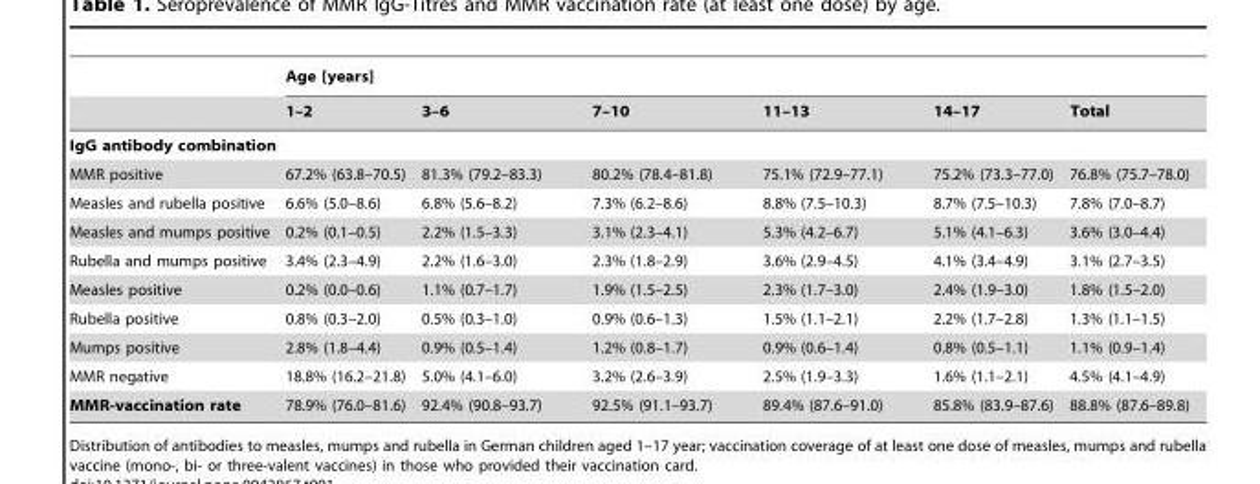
<table><thead><tr><td rowspan="2"></td><td colspan="6">Age [years]</td></tr><tr><td>1–2</td><td>3–6</td><td>7–10</td><td>11–13</td><td>14–17</td><td>Total</td></tr></thead><tbody><tr><td colspan="7">IgG antibody combination</td></tr><tr><td>MMR positive</td><td>67.2% (63.8–70.5)</td><td>81.3% (79.2–83.3)</td><td>80.2% (78.4–81.8)</td><td>75.1% (72.9–77.1)</td><td>75.2% (73.3–77.0)</td><td>76.8% (75.7–78.0)</td></tr><tr><td>Measles and rubella positive</td><td>6.6% (5.0–8.6)</td><td>6.8% (5.6–8.2)</td><td>7.3% (6.2–8.6)</td><td>8.8% (7.5–10.3)</td><td>8.7% (7.5–10.3)</td><td>7.8% (7.0–8.7)</td></tr><tr><td>Measles and mumps positive</td><td>0.2% (0.1–0.5)</td><td>2.2% (1.5–3.3)</td><td>3.1% (2.3–4.1)</td><td>5.3% (4.2–6.7)</td><td>5.1% (4.1–6.3)</td><td>3.6% (3.0–4.4)</td></tr><tr><td>Rubella and mumps positive</td><td>3.4% (2.3–4.9)</td><td>2.2% (1.6–3.0)</td><td>2.3% (1.8–2.9)</td><td>3.6% (2.9–4.5)</td><td>4.1% (3.4–4.9)</td><td>3.1% (2.7–3.5)</td></tr><tr><td>Measles positive</td><td>0.2% (0.0–0.6)</td><td>1.1% (0.7–1.7)</td><td>1.9% (1.5–2.5)</td><td>2.3% (1.7–3.0)</td><td>2.4% (1.9–3.0)</td><td>1.8% (1.5–2.0)</td></tr><tr><td>Rubella positive</td><td>0.8% (0.3–2.0)</td><td>0.5% (0.3–1.0)</td><td>0.9% (0.6–1.3)</td><td>1.5% (1.1–2.1)</td><td>2.2% (1.7–2.8)</td><td>1.3% (1.1–1.5)</td></tr><tr><td>Mumps positive</td><td>2.8% (1.8–4.4)</td><td>0.9% (0.5–1.4)</td><td>1.2% (0.8–1.7)</td><td>0.9% (0.6–1.4)</td><td>0.8% (0.5–1.1)</td><td>1.1% (0.9–1.4)</td></tr><tr><td>MMR negative</td><td>18.8% (16.2–21.8)</td><td>5.0% (4.1–6.0)</td><td>3.2% (2.6–3.9)</td><td>2.5% (1.9–3.3)</td><td>1.6% (1.1–2.1)</td><td>4.5% (4.1–4.9)</td></tr><tr><td>MMR-vaccination rate</td><td>78.9% (76.0–81.6)</td><td>92.4% (90.8–93.7)</td><td>92.5% (91.1–93.7)</td><td>89.4% (87.6–91.0)</td><td>85.8% (83.9–87.6)</td><td>88.8% (87.6–89.8)</td></tr></tbody></table>